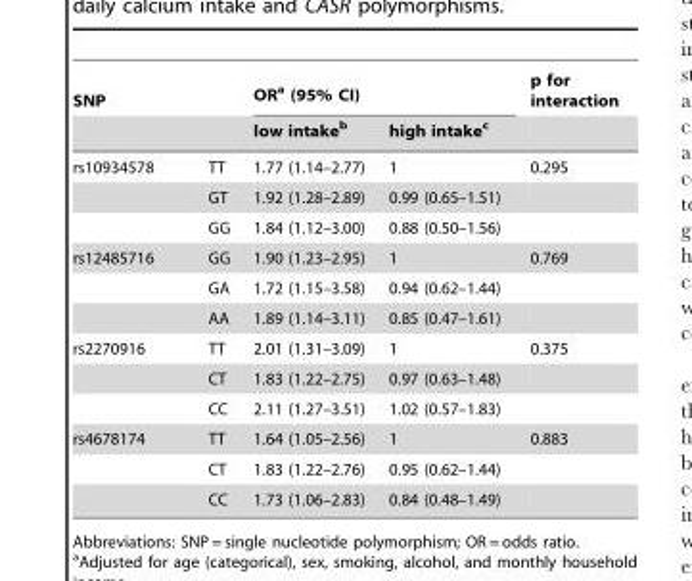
<table><thead><tr><td colspan="2">SNP</td><td colspan="2">OR<sup>a</sup> (95% CI)</td><td rowspan="2">p for interaction</td></tr><tr><td></td><td></td><td>low intake<sup>b</sup></td><td>high intake<sup>c</sup></td></tr></thead><tbody><tr><td rowspan="3">rs10934578</td><td>TT</td><td>1.77 (1.14–2.77)</td><td>1</td><td>0.295</td></tr><tr><td>GT</td><td>1.92 (1.28–2.89)</td><td>0.99 (0.65–1.51)</td><td></td></tr><tr><td>GG</td><td>1.84 (1.12–3.00)</td><td>0.88 (0.50–1.56)</td><td></td></tr><tr><td rowspan="3">rs12485716</td><td>GG</td><td>1.90 (1.23–2.95)</td><td>1</td><td>0.769</td></tr><tr><td>GA</td><td>1.72 (1.15–3.58)</td><td>0.94 (0.62–1.44)</td><td></td></tr><tr><td>AA</td><td>1.89 (1.14–3.11)</td><td>0.85 (0.47–1.61)</td><td></td></tr><tr><td rowspan="3">rs2270916</td><td>TT</td><td>2.01 (1.31–3.09)</td><td>1</td><td>0.375</td></tr><tr><td>CT</td><td>1.83 (1.22–2.75)</td><td>0.97 (0.63–1.48)</td><td></td></tr><tr><td>CC</td><td>2.11 (1.27–3.51)</td><td>1.02 (0.57–1.83)</td><td></td></tr><tr><td rowspan="3">rs4678174</td><td>TT</td><td>1.64 (1.05–2.56)</td><td>1</td><td>0.883</td></tr><tr><td>CT</td><td>1.83 (1.22–2.76)</td><td>0.95 (0.62–1.44)</td><td></td></tr><tr><td>CC</td><td>1.73 (1.06–2.83)</td><td>0.84 (0.48–1.49)</td><td></td></tr></tbody></table>